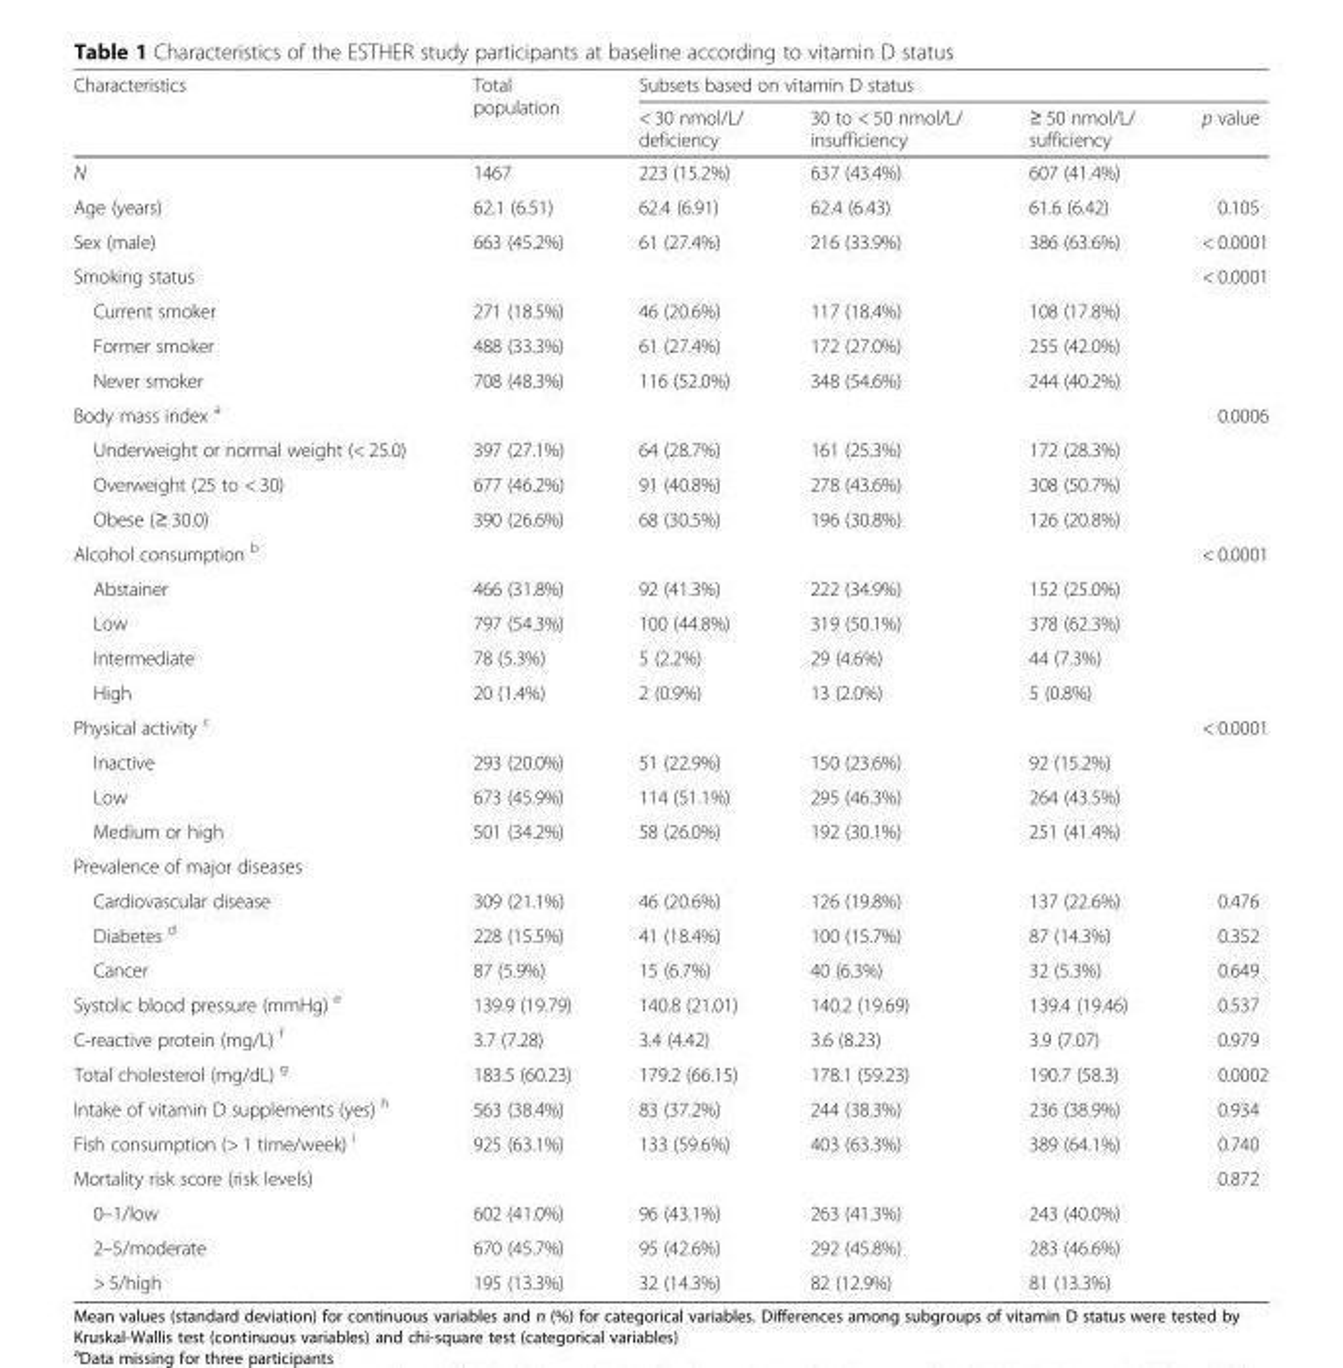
<table><thead><tr><td rowspan="2">Characteristics</td><td rowspan="2">Total population</td><td colspan="4">Subsets based on vitamin D status</td></tr><tr><td>&lt; 30 nmol/L/ deficiency</td><td>30 to &lt; 50 nmol/L/ insufficiency</td><td>≥ 50 nmol/L/ sufficiency</td><td>p value</td></tr></thead><tbody><tr><td>N</td><td>1467</td><td>223 (15.2%)</td><td>637 (43.4%)</td><td>607 (41.4%)</td><td></td></tr><tr><td>Age (years)</td><td>62.1 (6.51)</td><td>62.4 (6.91)</td><td>62.4 (6.43)</td><td>61.6 (6.42)</td><td>0.105</td></tr><tr><td>Sex (male)</td><td>663 (45.2%)</td><td>61 (27.4%)</td><td>216 (33.9%)</td><td>386 (63.6%)</td><td>&lt; 0.0001</td></tr><tr><td>Smoking status</td><td></td><td></td><td></td><td></td><td>&lt; 0.0001</td></tr><tr><td>Current smoker</td><td>271 (18.5%)</td><td>46 (20.6%)</td><td>117 (18.4%)</td><td>108 (17.8%)</td><td></td></tr><tr><td>Former smoker</td><td>488 (33.3%)</td><td>61 (27.4%)</td><td>172 (27.0%)</td><td>255 (42.0%)</td><td></td></tr><tr><td>Never smoker</td><td>708 (48.3%)</td><td>116 (52.0%)</td><td>348 (54.6%)</td><td>244 (40.2%)</td><td></td></tr><tr><td>Body mass index <sup>a</sup></td><td></td><td></td><td></td><td></td><td>0.0006</td></tr><tr><td>Underweight or normal weight (&lt; 25.0)</td><td>397 (27.1%)</td><td>64 (28.7%)</td><td>161 (25.3%)</td><td>172 (28.3%)</td><td></td></tr><tr><td>Overweight (25 to &lt; 30)</td><td>677 (46.2%)</td><td>91 (40.8%)</td><td>278 (43.6%)</td><td>308 (50.7%)</td><td></td></tr><tr><td>Obese (≥ 30.0)</td><td>390 (26.6%)</td><td>68 (30.5%)</td><td>196 (30.8%)</td><td>126 (20.8%)</td><td></td></tr><tr><td>Alcohol consumption <sup>b</sup></td><td></td><td></td><td></td><td></td><td>&lt; 0.0001</td></tr><tr><td>Abstainer</td><td>466 (31.8%)</td><td>92 (41.3%)</td><td>222 (34.9%)</td><td>152 (25.0%)</td><td></td></tr><tr><td>Low</td><td>797 (54.3%)</td><td>100 (44.8%)</td><td>319 (50.1%)</td><td>378 (62.3%)</td><td></td></tr><tr><td>Intermediate</td><td>78 (5.3%)</td><td>5 (2.2%)</td><td>29 (4.6%)</td><td>44 (7.3%)</td><td></td></tr><tr><td>High</td><td>20 (1.4%)</td><td>2 (0.9%)</td><td>13 (2.0%)</td><td>5 (0.8%)</td><td></td></tr><tr><td>Physical activity <sup>c</sup></td><td></td><td></td><td></td><td></td><td>&lt; 0.0001</td></tr><tr><td>Inactive</td><td>293 (20.0%)</td><td>51 (22.9%)</td><td>150 (23.6%)</td><td>92 (15.2%)</td><td></td></tr><tr><td>Low</td><td>673 (45.9%)</td><td>114 (51.1%)</td><td>295 (46.3%)</td><td>264 (43.5%)</td><td></td></tr><tr><td>Medium or high</td><td>501 (34.2%)</td><td>58 (26.0%)</td><td>192 (30.1%)</td><td>251 (41.4%)</td><td></td></tr><tr><td colspan="6">Prevalence of major diseases</td></tr><tr><td>Cardiovascular disease</td><td>309 (21.1%)</td><td>46 (20.6%)</td><td>126 (19.8%)</td><td>137 (22.6%)</td><td>0.476</td></tr><tr><td>Diabetes <sup>d</sup></td><td>228 (15.5%)</td><td>41 (18.4%)</td><td>100 (15.7%)</td><td>87 (14.3%)</td><td>0.352</td></tr><tr><td>Cancer</td><td>87 (5.9%)</td><td>15 (6.7%)</td><td>40 (6.3%)</td><td>32 (5.3%)</td><td>0.649</td></tr><tr><td>Systolic blood pressure (mmHg) <sup>e</sup></td><td>139.9 (19.79)</td><td>140.8 (21.01)</td><td>140.2 (19.69)</td><td>139.4 (19.46)</td><td>0.537</td></tr><tr><td>C-reactive protein (mg/L) <sup>f</sup></td><td>3.7 (7.28)</td><td>3.4 (4.42)</td><td>3.6 (8.23)</td><td>3.9 (7.07)</td><td>0.979</td></tr><tr><td>Total cholesterol (mg/dL) <sup>g</sup></td><td>183.5 (60.23)</td><td>179.2 (66.15)</td><td>178.1 (59.23)</td><td>190.7 (58.3)</td><td>0.0002</td></tr><tr><td>Intake of vitamin D supplements (yes) <sup>h</sup></td><td>563 (38.4%)</td><td>83 (37.2%)</td><td>244 (38.3%)</td><td>236 (38.9%)</td><td>0.934</td></tr><tr><td>Fish consumption (&gt; 1 time/week) <sup>i</sup></td><td>925 (63.1%)</td><td>133 (59.6%)</td><td>403 (63.3%)</td><td>389 (64.1%)</td><td>0.740</td></tr><tr><td>Mortality risk score (risk levels)</td><td></td><td></td><td></td><td></td><td>0.872</td></tr><tr><td>0–1/low</td><td>602 (41.0%)</td><td>96 (43.1%)</td><td>263 (41.3%)</td><td>243 (40.0%)</td><td></td></tr><tr><td>2–5/moderate</td><td>670 (45.7%)</td><td>95 (42.6%)</td><td>292 (45.8%)</td><td>283 (46.6%)</td><td></td></tr><tr><td>&gt; 5/high</td><td>195 (13.3%)</td><td>32 (14.3%)</td><td>82 (12.9%)</td><td>81 (13.3%)</td><td></td></tr></tbody></table>